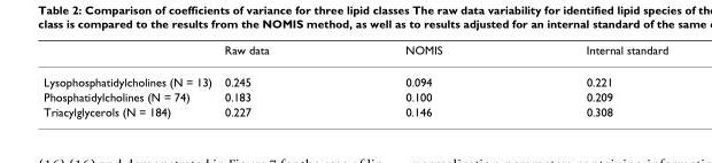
<table><thead><tr><td></td><td>Raw data</td><td>NOMIS</td><td>Internal standard</td></tr></thead><tbody><tr><td>Lysophosphatidylcholines (N = 13)</td><td>0.245</td><td>0.094</td><td>0.221</td></tr><tr><td>Phosphatidylcholines (N = 74)</td><td>0.183</td><td>0.100</td><td>0.209</td></tr><tr><td>Triacylglycerols (N = 184)</td><td>0.227</td><td>0.146</td><td>0.308</td></tr></tbody></table>